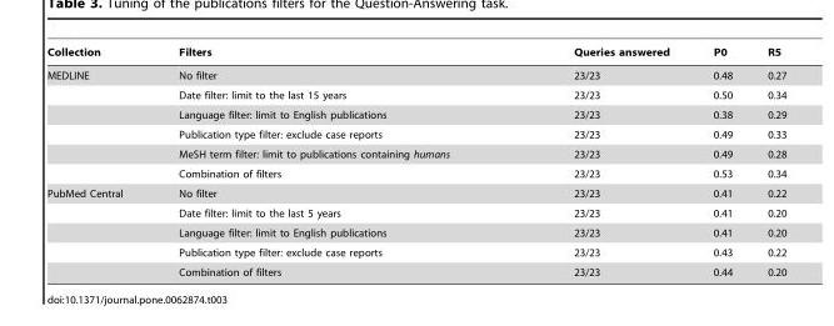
<table><thead><tr><td>Collection</td><td>Filters</td><td>Queries answered</td><td>P0</td><td>R5</td></tr></thead><tbody><tr><td rowspan="6">MEDLINE</td><td>No filter</td><td>23/23</td><td>0.48</td><td>0.27</td></tr><tr><td>Date filter: limit to the last 15 years</td><td>23/23</td><td>0.50</td><td>0.34</td></tr><tr><td>Language filter: limit to English publications</td><td>23/23</td><td>0.38</td><td>0.29</td></tr><tr><td>Publication type filter: exclude case reports</td><td>23/23</td><td>0.49</td><td>0.33</td></tr><tr><td>MeSH term filter: limit to publications containing humans</td><td>23/23</td><td>0.49</td><td>0.28</td></tr><tr><td>Combination of filters</td><td>23/23</td><td>0.53</td><td>0.34</td></tr><tr><td rowspan="5">PubMed Central</td><td>No filter</td><td>23/23</td><td>0.41</td><td>0.22</td></tr><tr><td>Date filter: limit to the last 5 years</td><td>23/23</td><td>0.41</td><td>0.20</td></tr><tr><td>Language filter: limit to English publications</td><td>23/23</td><td>0.41</td><td>0.20</td></tr><tr><td>Publication type filter: exclude case reports</td><td>23/23</td><td>0.43</td><td>0.22</td></tr><tr><td>Combination of filters</td><td>23/23</td><td>0.44</td><td>0.20</td></tr></tbody></table>